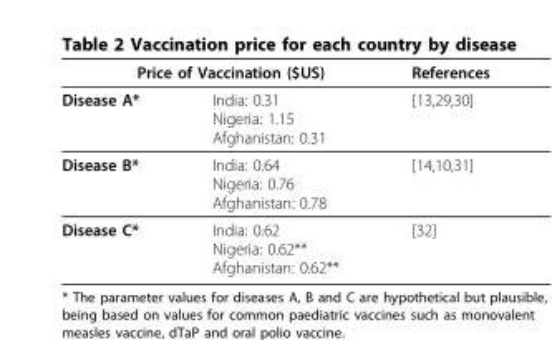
<table><thead><tr><td colspan="2">Price of Vaccination ($US)</td><td rowspan="2">References [13,29,30]</td></tr><tr><td>Disease A*</td><td>India: 0.31 Nigeria: 1.15 Afghanistan: 0.31</td></tr></thead><tbody><tr><td>Disease B*</td><td>India: 0.64 Nigeria: 0.76 Afghanistan: 0.78</td><td>[14,10,31]</td></tr><tr><td>Disease C*</td><td>India: 0.62 Nigeria: 0.62** Afghanistan: 0.62**</td><td>[32]</td></tr></tbody></table>